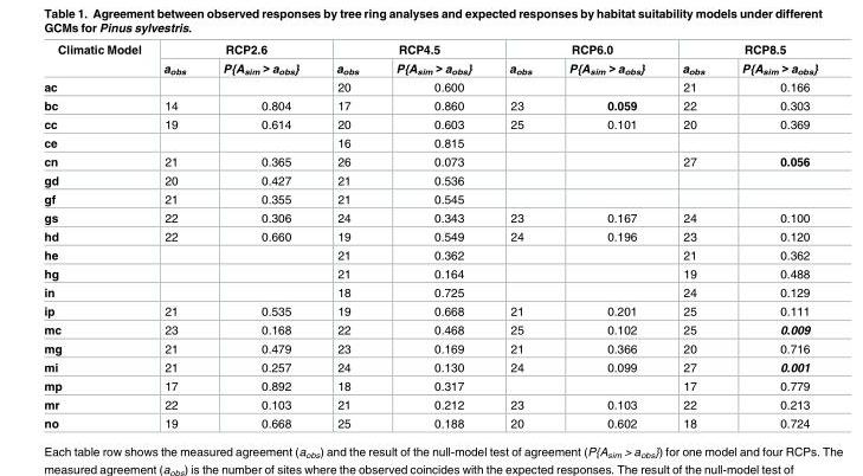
<table><thead><tr><td rowspan="2">Climatic Model</td><td colspan="2">RCP2.6</td><td colspan="2">RCP4.5</td><td colspan="2">RCP6.0</td><td colspan="2">RCP8.5</td></tr><tr><td>a<sub>obs</sub></td><td>P{A<sub>sim</sub> &gt; a<sub>obs</sub>}</td><td>a<sub>obs</sub></td><td>P{A<sub>sim</sub> &gt; a<sub>obs</sub>}</td><td>a<sub>obs</sub></td><td>P{A<sub>sim</sub> &gt; a<sub>obs</sub>}</td><td>a<sub>obs</sub></td><td>P{A<sub>sim</sub> &gt; a<sub>obs</sub>}</td></tr></thead><tbody><tr><td>ac</td><td></td><td></td><td>20</td><td>0.600</td><td></td><td></td><td>21</td><td>0.166</td></tr><tr><td>bc</td><td>14</td><td>0.804</td><td>17</td><td>0.860</td><td>23</td><td>0.059</td><td>22</td><td>0.303</td></tr><tr><td>cc</td><td>19</td><td>0.614</td><td>20</td><td>0.603</td><td>25</td><td>0.101</td><td>20</td><td>0.369</td></tr><tr><td>ce</td><td></td><td></td><td>16</td><td>0.815</td><td></td><td></td><td></td><td></td></tr><tr><td>cn</td><td>21</td><td>0.365</td><td>26</td><td>0.073</td><td></td><td></td><td>27</td><td>0.056</td></tr><tr><td>gd</td><td>20</td><td>0.427</td><td>21</td><td>0.536</td><td></td><td></td><td></td><td></td></tr><tr><td>gf</td><td>21</td><td>0.355</td><td>21</td><td>0.545</td><td></td><td></td><td></td><td></td></tr><tr><td>gs</td><td>22</td><td>0.306</td><td>24</td><td>0.343</td><td>23</td><td>0.167</td><td>24</td><td>0.100</td></tr><tr><td>hd</td><td>22</td><td>0.660</td><td>19</td><td>0.549</td><td>24</td><td>0.196</td><td>23</td><td>0.120</td></tr><tr><td>he</td><td></td><td></td><td>21</td><td>0.362</td><td></td><td></td><td>21</td><td>0.362</td></tr><tr><td>hg</td><td></td><td></td><td>21</td><td>0.164</td><td></td><td></td><td>19</td><td>0.488</td></tr><tr><td>in</td><td></td><td></td><td>18</td><td>0.725</td><td></td><td></td><td>24</td><td>0.129</td></tr><tr><td>ip</td><td>21</td><td>0.535</td><td>19</td><td>0.668</td><td>21</td><td>0.201</td><td>25</td><td>0.111</td></tr><tr><td>mc</td><td>23</td><td>0.168</td><td>22</td><td>0.468</td><td>25</td><td>0.102</td><td>25</td><td>0.009</td></tr><tr><td>mg</td><td>21</td><td>0.479</td><td>23</td><td>0.169</td><td>21</td><td>0.366</td><td>20</td><td>0.716</td></tr><tr><td>mi</td><td>21</td><td>0.257</td><td>24</td><td>0.130</td><td>24</td><td>0.099</td><td>27</td><td>0.001</td></tr><tr><td>mp</td><td>17</td><td>0.892</td><td>18</td><td>0.317</td><td></td><td></td><td>17</td><td>0.779</td></tr><tr><td>mr</td><td>22</td><td>0.103</td><td>21</td><td>0.212</td><td>23</td><td>0.103</td><td>22</td><td>0.213</td></tr><tr><td>no</td><td>19</td><td>0.668</td><td>25</td><td>0.188</td><td>20</td><td>0.602</td><td>18</td><td>0.724</td></tr></tbody></table>